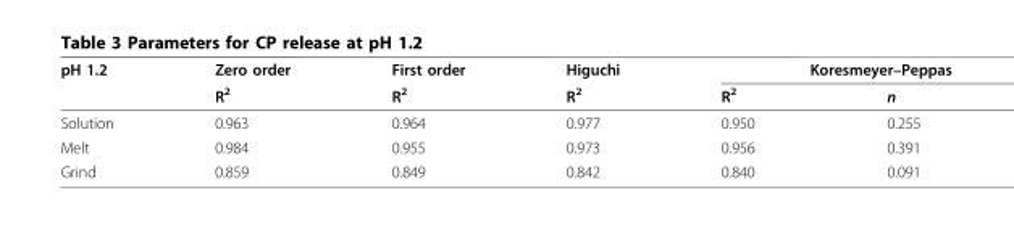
<table><thead><tr><td rowspan="2">pH 1.2</td><td rowspan="2">Zero order R<sup>2</sup></td><td rowspan="2">First order R<sup>2</sup></td><td rowspan="2">Higuchi R<sup>2</sup></td><td colspan="2">Koresmeyer–Peppas</td></tr><tr><td>R<sup>2</sup></td><td>n</td></tr></thead><tbody><tr><td>Solution</td><td>0.963</td><td>0.964</td><td>0.977</td><td>0.950</td><td>0.255</td></tr><tr><td>Melt</td><td>0.984</td><td>0.955</td><td>0.973</td><td>0.956</td><td>0.391</td></tr><tr><td>Grind</td><td>0.859</td><td>0.849</td><td>0.842</td><td>0.840</td><td>0.091</td></tr></tbody></table>